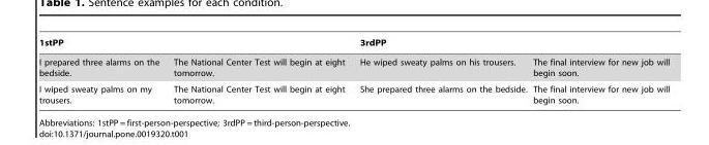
<table><thead><tr><td colspan="2">1stPP</td><td colspan="2">3rdPP</td></tr><tr><td>I prepared three alarms on the bedside.</td><td>The National Center Test will begin at eight tomorrow.</td><td>He wiped sweaty palms on his trousers.</td><td>The final interview for new job will begin soon.</td></tr></thead><tbody><tr><td>I wiped sweaty palms on my trousers.</td><td>The National Center Test will begin at eight tomorrow.</td><td>She prepared three alarms on the bedside.</td><td>The final interview for new job will begin soon.</td></tr></tbody></table>